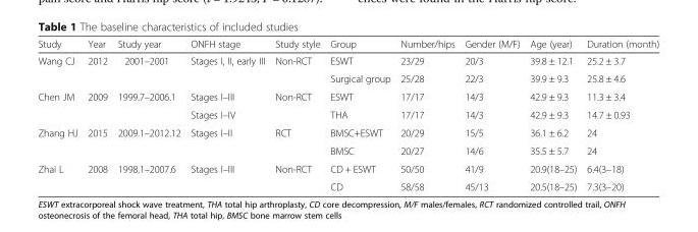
<table><thead><tr><td>Study</td><td>Year</td><td>Study year</td><td>ONFH stage</td><td>Study style</td><td>Group</td><td>Number/hips</td><td>Gender (M/F)</td><td>Age (year)</td><td>Duration (month)</td></tr></thead><tbody><tr><td rowspan="2">Wang CJ</td><td rowspan="2">2012</td><td rowspan="2">2001–2001</td><td rowspan="2">Stages I, II, early III</td><td rowspan="2">Non-RCT</td><td>ESWT</td><td>23/29</td><td>20/3</td><td>39.8 ± 12.1</td><td>25.2 ± 3.7</td></tr><tr><td>Surgical group</td><td>25/28</td><td>22/3</td><td>39.9 ± 9.3</td><td>25.8 ± 4.6</td></tr><tr><td rowspan="2">Chen JM</td><td rowspan="2">2009</td><td rowspan="2">1999.7–2006.1</td><td>Stages I–III</td><td rowspan="2">Non-RCT</td><td>ESWT</td><td>17/17</td><td>14/3</td><td>42.9 ± 9.3</td><td>11.3 ± 3.4</td></tr><tr><td>Stages I–IV</td><td>THA</td><td>17/17</td><td>14/3</td><td>42.9 ± 9.3</td><td>14.7 ± 0.93</td></tr><tr><td rowspan="2">Zhang HJ</td><td rowspan="2">2015</td><td rowspan="2">2009.1–2012.12</td><td rowspan="2">Stages I–II</td><td rowspan="2">RCT</td><td>BMSC+ESWT</td><td>20/29</td><td>15/5</td><td>36.1 ± 6.2</td><td>24</td></tr><tr><td>BMSC</td><td>20/27</td><td>14/6</td><td>35.5 ± 5.7</td><td>24</td></tr><tr><td rowspan="2">Zhai L</td><td rowspan="2">2008</td><td rowspan="2">1998.1–2007.6</td><td rowspan="2">Stages I–III</td><td rowspan="2">Non-RCT</td><td>CD + ESWT</td><td>50/50</td><td>41/9</td><td>20.9(18–25)</td><td>6.4(3–18)</td></tr><tr><td>CD</td><td>58/58</td><td>45/13</td><td>20.5(18–25)</td><td>7.3(3–20)</td></tr></tbody></table>